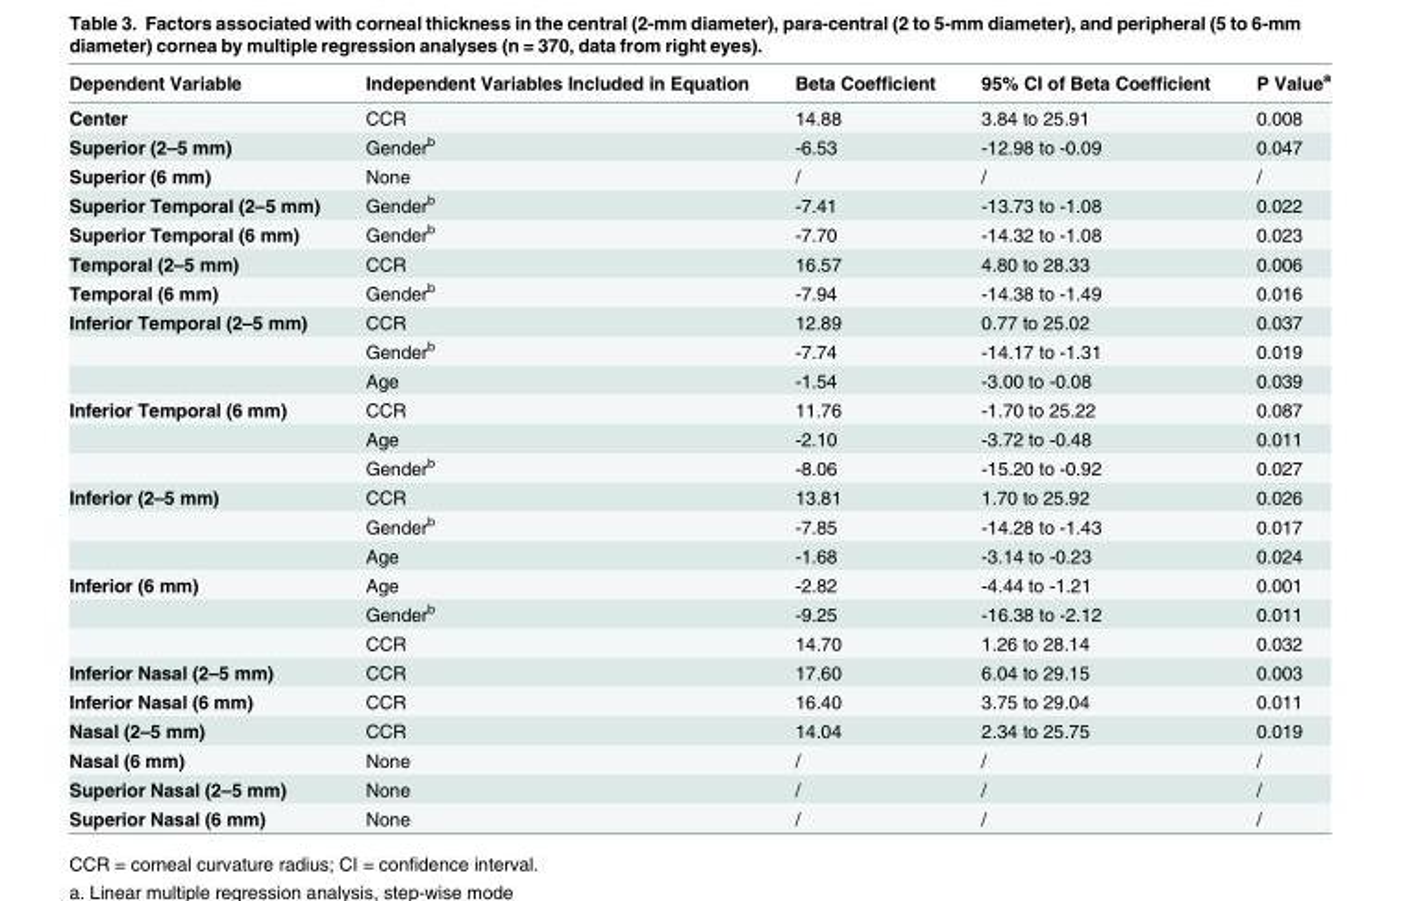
<table><thead><tr><td>Dependent Variable</td><td>Independent Variables Included in Equation</td><td>Beta Coefficient</td><td>95% CI of Beta Coefficient</td><td>P Value<sup>a</sup></td></tr></thead><tbody><tr><td>Center</td><td>CCR</td><td>14.88</td><td>3.84 to 25.91</td><td>0.008</td></tr><tr><td>Superior (2–5 mm)</td><td>Gender<sup>b</sup></td><td>-6.53</td><td>-12.98 to -0.09</td><td>0.047</td></tr><tr><td>Superior (6 mm)</td><td>None</td><td>/</td><td>/</td><td>/</td></tr><tr><td>Superior Temporal (2–5 mm)</td><td>Gender<sup>b</sup></td><td>-7.41</td><td>-13.73 to -1.08</td><td>0.022</td></tr><tr><td>Superior Temporal (6 mm)</td><td>Gender<sup>b</sup></td><td>-7.70</td><td>-14.32 to -1.08</td><td>0.023</td></tr><tr><td>Temporal (2–5 mm)</td><td>CCR</td><td>16.57</td><td>4.80 to 28.33</td><td>0.006</td></tr><tr><td>Temporal (6 mm)</td><td>Gender<sup>b</sup></td><td>-7.94</td><td>-14.38 to -1.49</td><td>0.016</td></tr><tr><td rowspan="3">Inferior Temporal (2–5 mm)</td><td>CCR</td><td>12.89</td><td>0.77 to 25.02</td><td>0.037</td></tr><tr><td>Gender<sup>b</sup></td><td>-7.74</td><td>-14.17 to -1.31</td><td>0.019</td></tr><tr><td>Age</td><td>-1.54</td><td>-3.00 to -0.08</td><td>0.039</td></tr><tr><td rowspan="3">Inferior Temporal (6 mm)</td><td>CCR</td><td>11.76</td><td>-1.70 to 25.22</td><td>0.087</td></tr><tr><td>Age</td><td>-2.10</td><td>-3.72 to -0.48</td><td>0.011</td></tr><tr><td>Gender<sup>b</sup></td><td>-8.06</td><td>-15.20 to -0.92</td><td>0.027</td></tr><tr><td rowspan="3">Inferior (2–5 mm)</td><td>CCR</td><td>13.81</td><td>1.70 to 25.92</td><td>0.026</td></tr><tr><td>Gender<sup>b</sup></td><td>-7.85</td><td>-14.28 to -1.43</td><td>0.017</td></tr><tr><td>Age</td><td>-1.68</td><td>-3.14 to -0.23</td><td>0.024</td></tr><tr><td rowspan="3">Inferior (6 mm)</td><td>Age</td><td>-2.82</td><td>-4.44 to -1.21</td><td>0.001</td></tr><tr><td>Gender<sup>b</sup></td><td>-9.25</td><td>-16.38 to -2.12</td><td>0.011</td></tr><tr><td>CCR</td><td>14.70</td><td>1.26 to 28.14</td><td>0.032</td></tr><tr><td>Inferior Nasal (2–5 mm)</td><td>CCR</td><td>17.60</td><td>6.04 to 29.15</td><td>0.003</td></tr><tr><td>Inferior Nasal (6 mm)</td><td>CCR</td><td>16.40</td><td>3.75 to 29.04</td><td>0.011</td></tr><tr><td>Nasal (2–5 mm)</td><td>CCR</td><td>14.04</td><td>2.34 to 25.75</td><td>0.019</td></tr><tr><td>Nasal (6 mm)</td><td>None</td><td>/</td><td>/</td><td>/</td></tr><tr><td>Superior Nasal (2–5 mm)</td><td>None</td><td>/</td><td>/</td><td>/</td></tr><tr><td>Superior Nasal (6 mm)</td><td>None</td><td>/</td><td>/</td><td>/</td></tr></tbody></table>